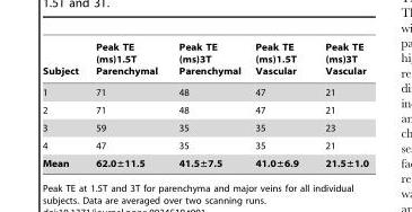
<table><thead><tr><td>Subject</td><td>Peak TE (ms)1.5T Parenchymal</td><td>Peak TE (ms)3T Parenchymal</td><td>Peak TE (ms)1.5T Vascular</td><td>Peak TE (ms)3T Vascular</td></tr></thead><tbody><tr><td>1</td><td>71</td><td>48</td><td>47</td><td>21</td></tr><tr><td>2</td><td>71</td><td>48</td><td>47</td><td>21</td></tr><tr><td>3</td><td>59</td><td>35</td><td>35</td><td>23</td></tr><tr><td>4</td><td>47</td><td>35</td><td>35</td><td>21</td></tr><tr><td>Mean</td><td>62.0±11.5</td><td>41.5±7.5</td><td>41.0±6.9</td><td>21.5±1.0</td></tr></tbody></table>